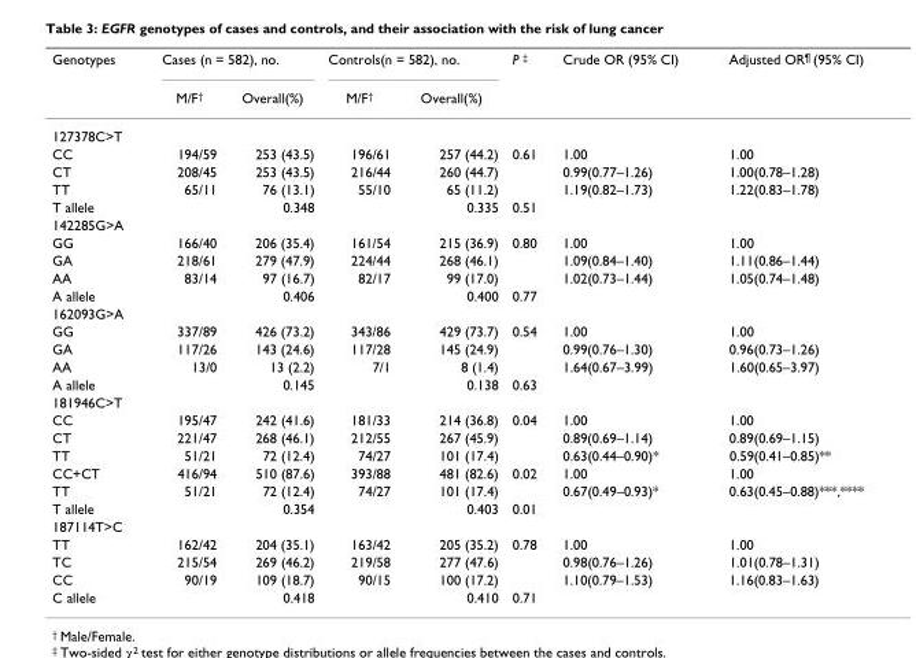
<table><thead><tr><td rowspan="2">Genotypes</td><td colspan="2">Cases (n = 582), no.</td><td colspan="2">Controls(n = 582), no.</td><td rowspan="2">P <sup>‡</sup></td><td rowspan="2">Crude OR (95% CI)</td><td rowspan="2">Adjusted OR<sup>¶</sup> (95% CI)</td></tr><tr><td>M/F<sup>†</sup></td><td>Overall(%)</td><td>M/F<sup>†</sup></td><td>Overall(%)</td></tr></thead><tbody><tr><td colspan="8">127378C&gt;T</td></tr><tr><td>CC</td><td>194/59</td><td>253 (43.5)</td><td>196/61</td><td>257 (44.2)</td><td>0.61</td><td>1.00</td><td>1.00</td></tr><tr><td>CT</td><td>208/45</td><td>253 (43.5)</td><td>216/44</td><td>260 (44.7)</td><td></td><td>0.99(0.77–1.26)</td><td>1.00(0.78–1.28)</td></tr><tr><td>TT</td><td>65/11</td><td>76 (13.1)</td><td>55/10</td><td>65 (11.2)</td><td></td><td>1.19(0.82–1.73)</td><td>1.22(0.83–1.78)</td></tr><tr><td>T allele</td><td></td><td>0.348</td><td></td><td>0.335</td><td>0.51</td><td></td><td></td></tr><tr><td colspan="8">142285G&gt;A</td></tr><tr><td>GG</td><td>166/40</td><td>206 (35.4)</td><td>161/54</td><td>215 (36.9)</td><td>0.80</td><td>1.00</td><td>1.00</td></tr><tr><td>GA</td><td>218/61</td><td>279 (47.9)</td><td>224/44</td><td>268 (46.1)</td><td></td><td>1.09(0.84–1.40)</td><td>1.11(0.86–1.44)</td></tr><tr><td>AA</td><td>83/14</td><td>97 (16.7)</td><td>82/17</td><td>99 (17.0)</td><td></td><td>1.02(0.73–1.44)</td><td>1.05(0.74–1.48)</td></tr><tr><td>A allele</td><td></td><td>0.406</td><td></td><td>0.400</td><td>0.77</td><td></td><td></td></tr><tr><td colspan="8">162093G&gt;A</td></tr><tr><td>GG</td><td>337/89</td><td>426 (73.2)</td><td>343/86</td><td>429 (73.7)</td><td>0.54</td><td>1.00</td><td>1.00</td></tr><tr><td>GA</td><td>117/26</td><td>143 (24.6)</td><td>117/28</td><td>145 (24.9)</td><td></td><td>0.99(0.76–1.30)</td><td>0.96(0.73–1.26)</td></tr><tr><td>AA</td><td>13/0</td><td>13 (2.2)</td><td>7/1</td><td>8 (1.4)</td><td></td><td>1.64(0.67–3.99)</td><td>1.60(0.65–3.97)</td></tr><tr><td>A allele</td><td></td><td>0.145</td><td></td><td>0.138</td><td>0.63</td><td></td><td></td></tr><tr><td colspan="8">181946C&gt;T</td></tr><tr><td>CC</td><td>195/47</td><td>242 (41.6)</td><td>181/33</td><td>214 (36.8)</td><td>0.04</td><td>1.00</td><td>1.00</td></tr><tr><td>CT</td><td>221/47</td><td>268 (46.1)</td><td>212/55</td><td>267 (45.9)</td><td></td><td>0.89(0.69–1.14)</td><td>0.89(0.69–1.15)</td></tr><tr><td>TT</td><td>51/21</td><td>72 (12.4)</td><td>74/27</td><td>101 (17.4)</td><td></td><td>0.63(0.44–0.90)*</td><td>0.59(0.41–0.85)**</td></tr><tr><td>CC+CT</td><td>416/94</td><td>510 (87.6)</td><td>393/88</td><td>481 (82.6)</td><td>0.02</td><td>1.00</td><td>1.00</td></tr><tr><td>TT</td><td>51/21</td><td>72 (12.4)</td><td>74/27</td><td>101 (17.4)</td><td></td><td>0.67(0.49–0.93)*</td><td>0.63(0.45–0.88)***,****</td></tr><tr><td>T allele</td><td></td><td>0.354</td><td></td><td>0.403</td><td>0.01</td><td></td><td></td></tr><tr><td colspan="8">187114T&gt;C</td></tr><tr><td>TT</td><td>162/42</td><td>204 (35.1)</td><td>163/42</td><td>205 (35.2)</td><td>0.78</td><td>1.00</td><td>1.00</td></tr><tr><td>TC</td><td>215/54</td><td>269 (46.2)</td><td>219/58</td><td>277 (47.6)</td><td></td><td>0.98(0.76–1.26)</td><td>1.01(0.78–1.31)</td></tr><tr><td>CC</td><td>90/19</td><td>109 (18.7)</td><td>90/15</td><td>100 (17.2)</td><td></td><td>1.10(0.79–1.53)</td><td>1.16(0.83–1.63)</td></tr><tr><td>C allele</td><td></td><td>0.418</td><td></td><td>0.410</td><td>0.71</td><td></td><td></td></tr></tbody></table>